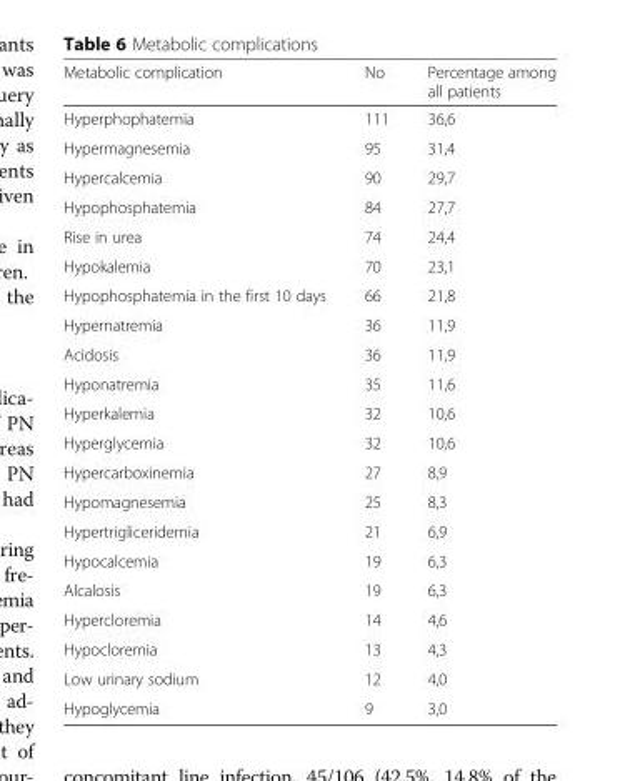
<table><thead><tr><td>Metabolic complication</td><td>No</td><td>Percentage among all patients</td></tr></thead><tbody><tr><td>Hyperphophatemia</td><td>111</td><td>36,6</td></tr><tr><td>Hypermagnesemia</td><td>95</td><td>31,4</td></tr><tr><td>Hypercalcemia</td><td>90</td><td>29,7</td></tr><tr><td>Hypophosphatemia</td><td>84</td><td>27,7</td></tr><tr><td>Rise in urea</td><td>74</td><td>24,4</td></tr><tr><td>Hypokalemia</td><td>70</td><td>23,1</td></tr><tr><td>Hypophosphatemia in the first 10 days</td><td>66</td><td>21,8</td></tr><tr><td>Hypernatremia</td><td>36</td><td>11,9</td></tr><tr><td>Acidosis</td><td>36</td><td>11,9</td></tr><tr><td>Hyponatremia</td><td>35</td><td>11,6</td></tr><tr><td>Hyperkalemia</td><td>32</td><td>10,6</td></tr><tr><td>Hyperglycemia</td><td>32</td><td>10,6</td></tr><tr><td>Hypercarboxinemia</td><td>27</td><td>8,9</td></tr><tr><td>Hypomagnesemia</td><td>25</td><td>8,3</td></tr><tr><td>Hypertrigliceridemia</td><td>21</td><td>6,9</td></tr><tr><td>Hypocalcemia</td><td>19</td><td>6,3</td></tr><tr><td>Alcalosis</td><td>19</td><td>6,3</td></tr><tr><td>Hypercloremia</td><td>14</td><td>4,6</td></tr><tr><td>Hypocloremia</td><td>13</td><td>4,3</td></tr><tr><td>Low urinary sodium</td><td>12</td><td>4,0</td></tr><tr><td>Hypoglycemia</td><td>9</td><td>3,0</td></tr></tbody></table>